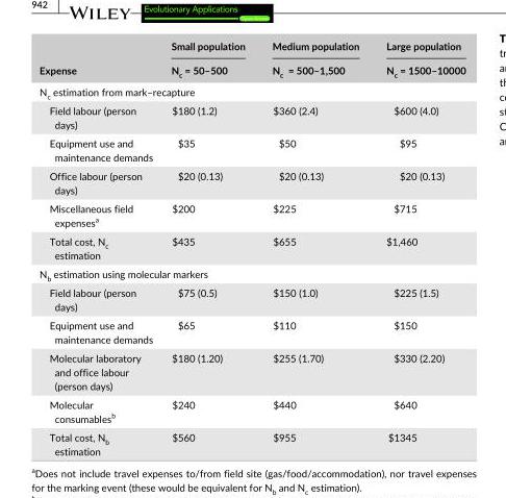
<table><thead><tr><td rowspan="2">Expense</td><td rowspan="2">Small population N<sub>c</sub> = 50–500</td><td rowspan="2">Medium population N<sub>c</sub> = 500–1,500</td><td rowspan="2">Large population N<sub>c</sub> = 1500–10000</td></tr><tr></tr></thead><tbody><tr><td colspan="4">N<sub>c</sub> estimation from mark–recapture</td></tr><tr><td>Field labour (person days)</td><td>$180 (1.2)</td><td>$360 (2.4)</td><td>$600 (4.0)</td></tr><tr><td>Equipment use and maintenance demands</td><td>$35</td><td>$50</td><td>$95</td></tr><tr><td>Office labour (person days)</td><td>$20 (0.13)</td><td>$20 (0.13)</td><td>$20 (0.13)</td></tr><tr><td>Miscellaneous field expenses<sup>a</sup></td><td>$200</td><td>$225</td><td>$715</td></tr><tr><td>Total cost, N<sub>c</sub> estimation</td><td>$435</td><td>$655</td><td>$1,460</td></tr><tr><td colspan="4">N<sub>b</sub> estimation using molecular markers</td></tr><tr><td>Field labour (person days)</td><td>$75 (0.5)</td><td>$150 (1.0)</td><td>$225 (1.5)</td></tr><tr><td>Equipment use and maintenance demands</td><td>$65</td><td>$110</td><td>$150</td></tr><tr><td>Molecular laboratory and office labour (person days)</td><td>$180 (1.20)</td><td>$255 (1.70)</td><td>$330 (2.20)</td></tr><tr><td>Molecular consumables<sup>b</sup></td><td>$240</td><td>$440</td><td>$640</td></tr><tr><td>Total cost, N<sub>b</sub> estimation</td><td>$560</td><td>$955</td><td>$1345</td></tr></tbody></table>